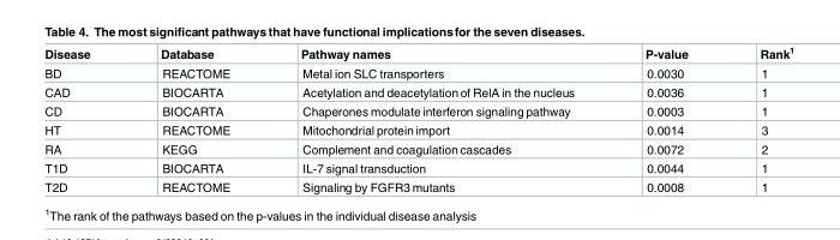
<table><thead><tr><td>Disease</td><td>Database</td><td>Pathway names</td><td>P-value</td><td>Rank<sup>1</sup></td></tr></thead><tbody><tr><td>BD</td><td>REACTOME</td><td>Metal ion SLC transporters</td><td>0.0030</td><td>1</td></tr><tr><td>CAD</td><td>BIOCARTA</td><td>Acetylation and deacetylation of RelA in the nucleus</td><td>0.0036</td><td>1</td></tr><tr><td>CD</td><td>BIOCARTA</td><td>Chaperones modulate interferon signaling pathway</td><td>0.0003</td><td>1</td></tr><tr><td>HT</td><td>REACTOME</td><td>Mitochondrial protein import</td><td>0.0014</td><td>3</td></tr><tr><td>RA</td><td>KEGG</td><td>Complement and coagulation cascades</td><td>0.0072</td><td>2</td></tr><tr><td>T1D</td><td>BIOCARTA</td><td>IL-7 signal transduction</td><td>0.0044</td><td>1</td></tr><tr><td>T2D</td><td>REACTOME</td><td>Signaling by FGFR3 mutants</td><td>0.0008</td><td>1</td></tr></tbody></table>